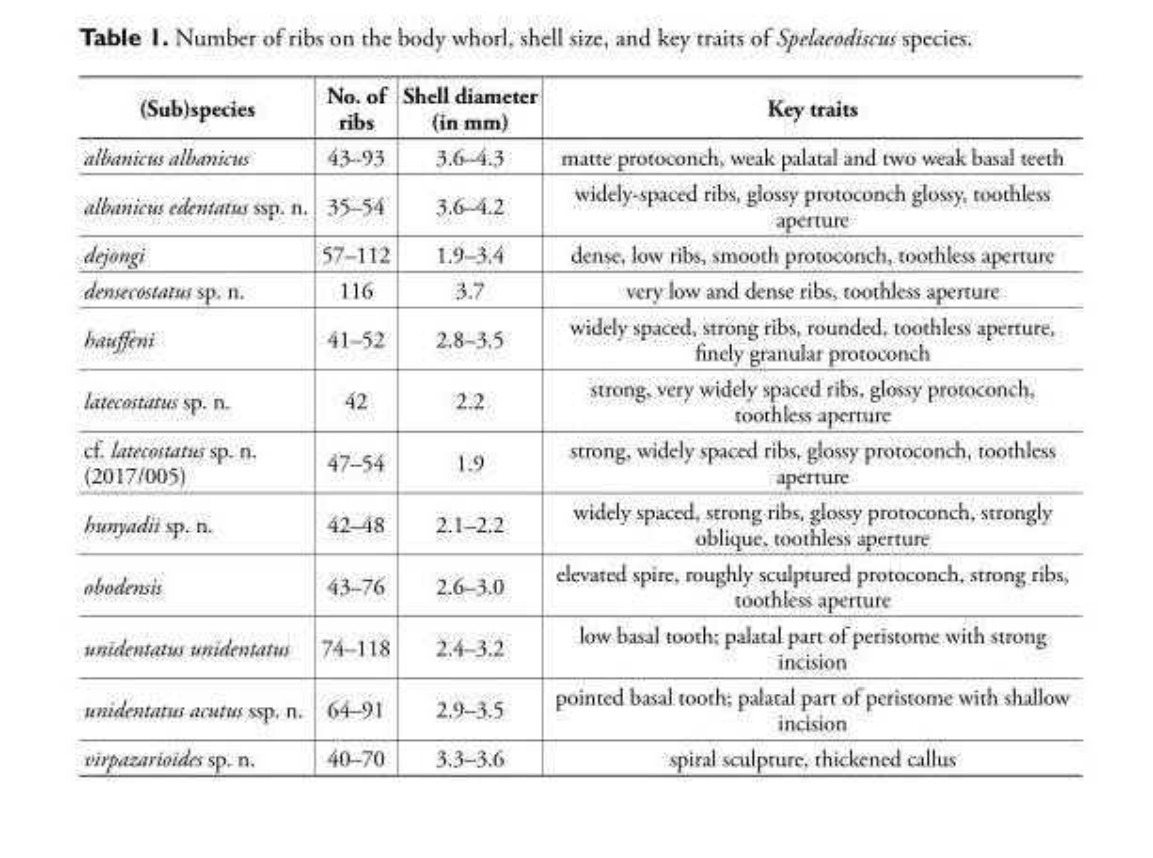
<table><thead><tr><td>(Sub)species</td><td>No. of ribs</td><td>Shell diameter (in mm)</td><td>Key traits</td></tr></thead><tbody><tr><td>albanicus albanicus</td><td>43–93</td><td>3.6–4.3</td><td>matte protoconch, weak palatal and two weak basal teeth</td></tr><tr><td>albanicus edentatus ssp. n.</td><td>35–54</td><td>3.6–4.2</td><td>widely-spaced ribs, glossy protoconch glossy, toothless aperture</td></tr><tr><td>dejongi</td><td>57–112</td><td>1.9–3.4</td><td>dense, low ribs, smooth protoconch, toothless aperture</td></tr><tr><td>densecostatus sp. n.</td><td>116</td><td>3.7</td><td>very low and dense ribs, toothless aperture</td></tr><tr><td>hauffeni</td><td>41–52</td><td>2.8–3.5</td><td>widely spaced, strong ribs, rounded, toothless aperture, finely granular protoconch</td></tr><tr><td>latecostatus sp. n.</td><td>42</td><td>2.2</td><td>strong, very widely spaced ribs, glossy protoconch, toothless aperture</td></tr><tr><td>cf. latecostatus sp. n. (2017/005)</td><td>47–54</td><td>1.9</td><td>strong, widely spaced ribs, glossy protoconch, toothless aperture</td></tr><tr><td>hunyadii sp. n.</td><td>42–48</td><td>2.1–2.2</td><td>widely spaced, strong ribs, glossy protoconch, strongly oblique, toothless aperture</td></tr><tr><td>obodensis</td><td>43–76</td><td>2.6–3.0</td><td>elevated spire, roughly sculptured protoconch, strong ribs, toothless aperture</td></tr><tr><td>unidentatus unidentatus</td><td>74–118</td><td>2.4–3.2</td><td>low basal tooth; palatal part of peristome with strong incision</td></tr><tr><td>unidentatus acutus ssp. n.</td><td>64–91</td><td>2.9–3.5</td><td>pointed basal tooth; palatal part of peristome with shallow incision</td></tr><tr><td>virpazarioides sp. n.</td><td>40–70</td><td>3.3–3.6</td><td>spiral sculpture, thickened callus</td></tr></tbody></table>